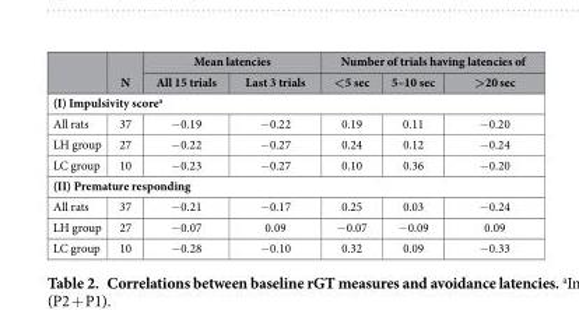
<table><thead><tr><td rowspan="2"></td><td rowspan="2">N</td><td colspan="2">Mean latencies</td><td colspan="3">Number of trials having latencies of</td></tr><tr><td>All 15 trials</td><td>Last 3 trials</td><td>&lt;5 sec</td><td>5–10 sec</td><td>&gt;20 sec</td></tr></thead><tbody><tr><td colspan="7">(I) Impulsivity score<sup>a</sup></td></tr><tr><td>All rats</td><td>37</td><td>− 0.19</td><td>− 0.22</td><td>0.19</td><td>0.11</td><td>− 0.20</td></tr><tr><td>LH group</td><td>27</td><td>− 0.22</td><td>− 0.27</td><td>0.24</td><td>0.12</td><td>− 0.24</td></tr><tr><td>LC group</td><td>10</td><td>− 0.23</td><td>− 0.27</td><td>0.10</td><td>0.36</td><td>− 0.20</td></tr><tr><td colspan="7">(II) Premature responding</td></tr><tr><td>All rats</td><td>37</td><td>− 0.21</td><td>− 0.17</td><td>0.25</td><td>0.03</td><td>− 0.24</td></tr><tr><td>LH group</td><td>27</td><td>− 0.07</td><td>0.09</td><td>− 0.07</td><td>− 0.09</td><td>0.09</td></tr><tr><td>LC group</td><td>10</td><td>− 0.28</td><td>− 0.10</td><td>0.32</td><td>0.09</td><td>− 0.33</td></tr></tbody></table>